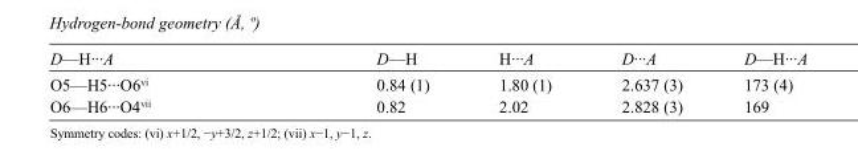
<table><tbody><tr><td>D—H···A</td><td>D—H</td><td>H···A</td><td>D···A</td><td>D—H···A</td></tr><tr><td>O5—H5···O6<sup>vi</sup></td><td>0.84 (1)</td><td>1.80 (1)</td><td>2.637 (3)</td><td>173 (4)</td></tr><tr><td>O6—H6···O4<sup>vii</sup></td><td>0.82</td><td>2.02</td><td>2.828 (3)</td><td>169</td></tr></tbody></table>